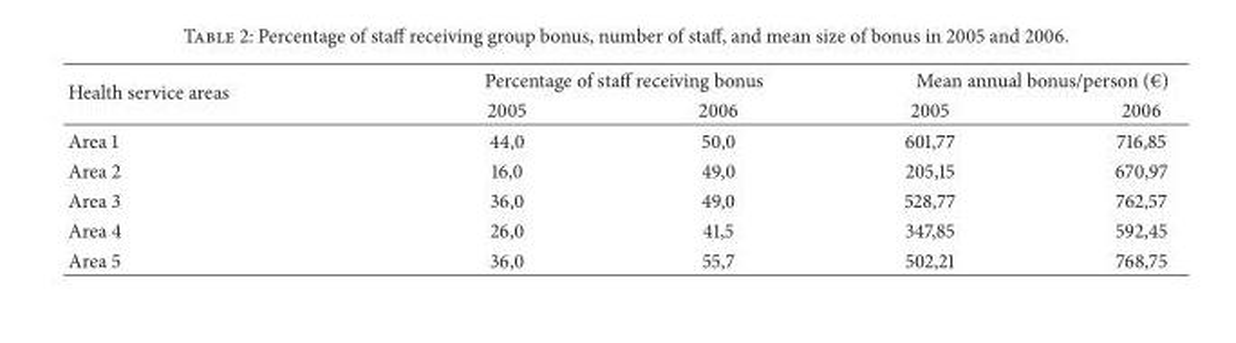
<table><thead><tr><td rowspan="2">Health service areas</td><td colspan="2">Percentage of staff receiving bonus</td><td colspan="2">Mean annual bonus/person (€)</td></tr><tr><td>2005</td><td>2006</td><td>2005</td><td>2006</td></tr></thead><tbody><tr><td>Area 1</td><td>44,0</td><td>50,0</td><td>601,77</td><td>716,85</td></tr><tr><td>Area 2</td><td>16,0</td><td>49,0</td><td>205,15</td><td>670,97</td></tr><tr><td>Area 3</td><td>36,0</td><td>49,0</td><td>528,77</td><td>762,57</td></tr><tr><td>Area 4</td><td>26,0</td><td>41,5</td><td>347,85</td><td>592,45</td></tr><tr><td>Area 5</td><td>36,0</td><td>55,7</td><td>502,21</td><td>768,75</td></tr></tbody></table>